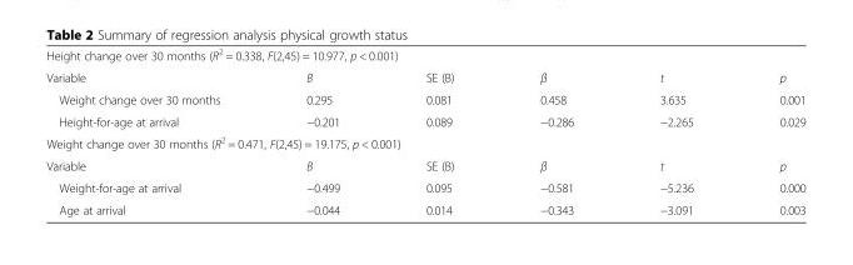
<table><tbody><tr><td colspan="6">Height change over 30 months (R<sup>2</sup> = 0.338, F(2,45) = 10.977, p &lt; 0.001)</td></tr><tr><td>Variable</td><td>B</td><td>SE (B)</td><td>β</td><td>t</td><td>p</td></tr><tr><td>Weight change over 30 months</td><td>0.295</td><td>0.081</td><td>0.458</td><td>3.635</td><td>0.001</td></tr><tr><td>Height-for-age at arrival</td><td>−0.201</td><td>0.089</td><td>−0.286</td><td>−2.265</td><td>0.029</td></tr><tr><td colspan="6">Weight change over 30 months (R<sup>2</sup> = 0.471, F(2,45) = 19.175, p &lt; 0.001)</td></tr><tr><td>Variable</td><td>B</td><td>SE (B)</td><td>β</td><td>t</td><td>p</td></tr><tr><td>Weight-for-age at arrival</td><td>−0.499</td><td>0.095</td><td>−0.581</td><td>−5.236</td><td>0.000</td></tr><tr><td>Age at arrival</td><td>−0.044</td><td>0.014</td><td>−0.343</td><td>−3.091</td><td>0.003</td></tr></tbody></table>